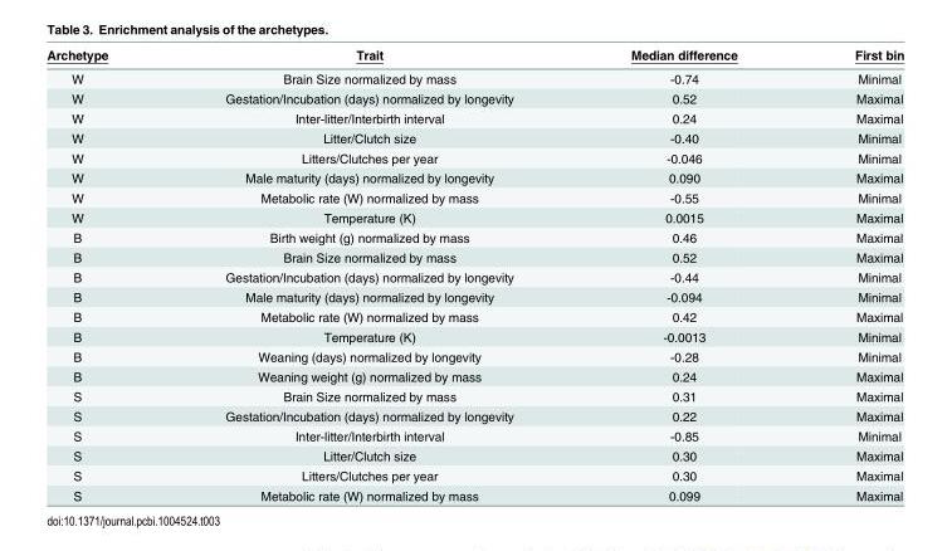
<table><thead><tr><td>Archetype</td><td>Trait</td><td>Median difference</td><td>First bin</td></tr></thead><tbody><tr><td>W</td><td>Brain Size normalized by mass</td><td>-0.74</td><td>Minimal</td></tr><tr><td>W</td><td>Gestation/Incubation (days) normalized by longevity</td><td>0.52</td><td>Maximal</td></tr><tr><td>W</td><td>Inter-litter/Interbirth interval</td><td>0.24</td><td>Maximal</td></tr><tr><td>W</td><td>Litter/Clutch size</td><td>-0.40</td><td>Minimal</td></tr><tr><td>W</td><td>Litters/Clutches per year</td><td>-0.046</td><td>Minimal</td></tr><tr><td>W</td><td>Male maturity (days) normalized by longevity</td><td>0.090</td><td>Maximal</td></tr><tr><td>W</td><td>Metabolic rate (W) normalized by mass</td><td>-0.55</td><td>Minimal</td></tr><tr><td>W</td><td>Temperature (K)</td><td>0.0015</td><td>Maximal</td></tr><tr><td>B</td><td>Birth weight (g) normalized by mass</td><td>0.46</td><td>Maximal</td></tr><tr><td>B</td><td>Brain Size normalized by mass</td><td>0.52</td><td>Maximal</td></tr><tr><td>B</td><td>Gestation/Incubation (days) normalized by longevity</td><td>-0.44</td><td>Minimal</td></tr><tr><td>B</td><td>Male maturity (days) normalized by longevity</td><td>-0.094</td><td>Minimal</td></tr><tr><td>B</td><td>Metabolic rate (W) normalized by mass</td><td>0.42</td><td>Maximal</td></tr><tr><td>B</td><td>Temperature (K)</td><td>-0.0013</td><td>Minimal</td></tr><tr><td>B</td><td>Weaning (days) normalized by longevity</td><td>-0.28</td><td>Minimal</td></tr><tr><td>B</td><td>Weaning weight (g) normalized by mass</td><td>0.24</td><td>Maximal</td></tr><tr><td>S</td><td>Brain Size normalized by mass</td><td>0.31</td><td>Maximal</td></tr><tr><td>S</td><td>Gestation/Incubation (days) normalized by longevity</td><td>0.22</td><td>Maximal</td></tr><tr><td>S</td><td>Inter-litter/Interbirth interval</td><td>-0.85</td><td>Minimal</td></tr><tr><td>S</td><td>Litter/Clutch size</td><td>0.30</td><td>Maximal</td></tr><tr><td>S</td><td>Litters/Clutches per year</td><td>0.30</td><td>Maximal</td></tr><tr><td>S</td><td>Metabolic rate (W) normalized by mass</td><td>0.099</td><td>Maximal</td></tr></tbody></table>